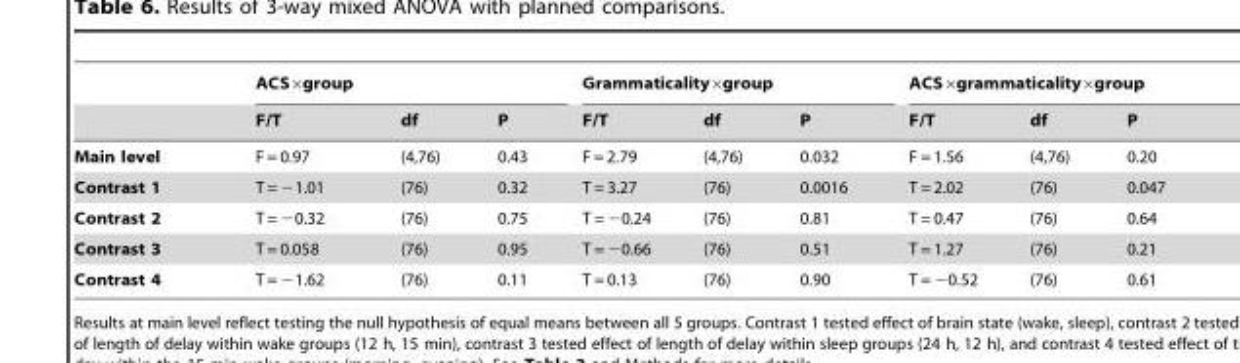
<table><thead><tr><td rowspan="2"></td><td colspan="3">ACS×group</td><td colspan="3">Grammaticality×group</td><td colspan="3">ACS×grammaticality×group</td></tr><tr><td>F/T</td><td>df</td><td>P</td><td>F/T</td><td>df</td><td>P</td><td>F/T</td><td>df</td><td>P</td></tr></thead><tbody><tr><td>Main level</td><td>F = 0.97</td><td>(4,76)</td><td>0.43</td><td>F = 2.79</td><td>(4,76)</td><td>0.032</td><td>F = 1.56</td><td>(4,76)</td><td>0.20</td></tr><tr><td>Contrast 1</td><td>T = −1.01</td><td>(76)</td><td>0.32</td><td>T = 3.27</td><td>(76)</td><td>0.0016</td><td>T = 2.02</td><td>(76)</td><td>0.047</td></tr><tr><td>Contrast 2</td><td>T = −0.32</td><td>(76)</td><td>0.75</td><td>T = −0.24</td><td>(76)</td><td>0.81</td><td>T = 0.47</td><td>(76)</td><td>0.64</td></tr><tr><td>Contrast 3</td><td>T = 0.058</td><td>(76)</td><td>0.95</td><td>T = −0.66</td><td>(76)</td><td>0.51</td><td>T = 1.27</td><td>(76)</td><td>0.21</td></tr><tr><td>Contrast 4</td><td>T = −1.62</td><td>(76)</td><td>0.11</td><td>T = 0.13</td><td>(76)</td><td>0.90</td><td>T = −0.52</td><td>(76)</td><td>0.61</td></tr></tbody></table>